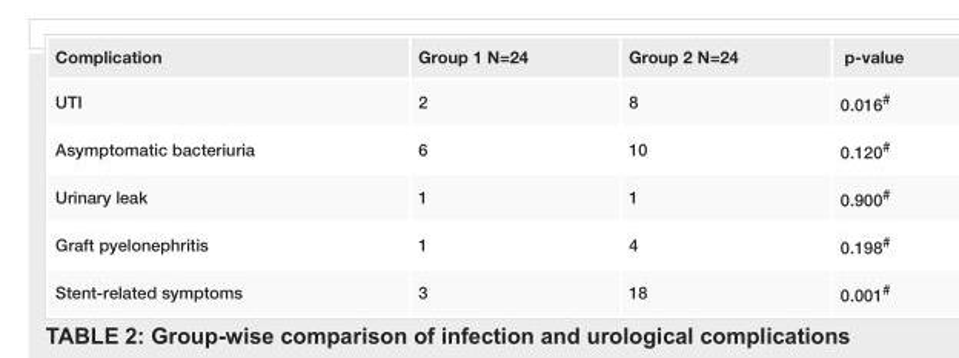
<table><tbody><tr><td>Complication</td><td>Group 1 N=24</td><td>Group 2 N=24</td><td>p-value</td></tr><tr><td>UTI</td><td>2</td><td>8</td><td>0.016<sup>#</sup></td></tr><tr><td>Asymptomatic bacteriuria</td><td>6</td><td>10</td><td>0.120<sup>#</sup></td></tr><tr><td>Urinary leak</td><td>1</td><td>1</td><td>0.900<sup>#</sup></td></tr><tr><td>Graft pyelonephritis</td><td>1</td><td>4</td><td>0.198<sup>#</sup></td></tr><tr><td>Stent-related symptoms</td><td>3</td><td>18</td><td>0.001<sup>#</sup></td></tr></tbody></table>